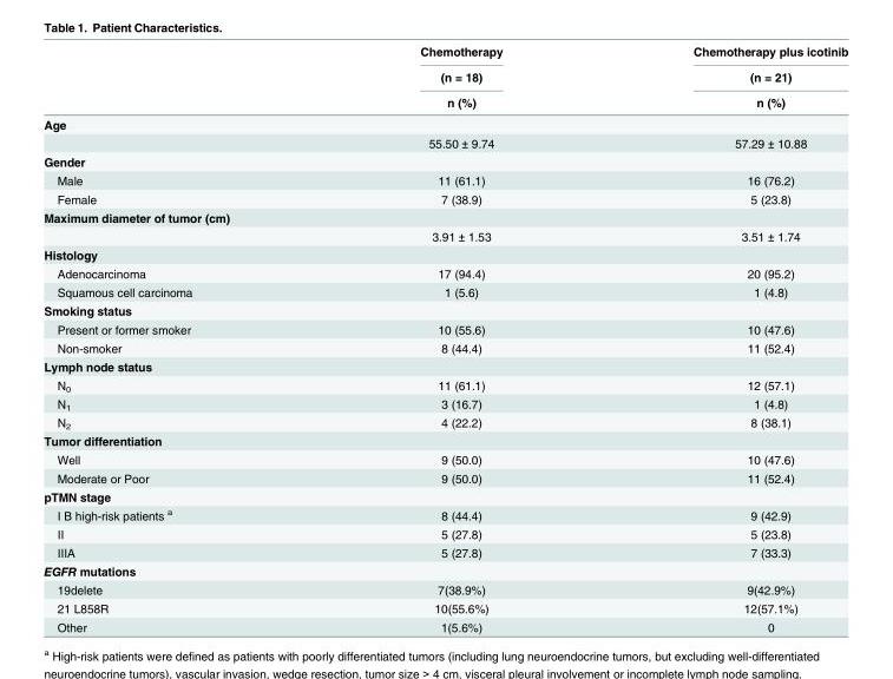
<table><thead><tr><td rowspan="3"></td><td rowspan="3">Chemotherapy (n = 18) n (%)</td><td rowspan="3">Chemotherapy plus icotinib (n = 21) n (%)</td></tr><tr></tr><tr></tr></thead><tbody><tr><td colspan="3">Age</td></tr><tr><td></td><td>55.50 ± 9.74</td><td>57.29 ± 10.88</td></tr><tr><td colspan="3">Gender</td></tr><tr><td>Male</td><td>11 (61.1)</td><td>16 (76.2)</td></tr><tr><td>Female</td><td>7 (38.9)</td><td>5 (23.8)</td></tr><tr><td colspan="3">Maximum diameter of tumor (cm)</td></tr><tr><td></td><td>3.91 ± 1.53</td><td>3.51 ± 1.74</td></tr><tr><td colspan="3">Histology</td></tr><tr><td>Adenocarcinoma</td><td>17 (94.4)</td><td>20 (95.2)</td></tr><tr><td>Squamous cell carcinoma</td><td>1 (5.6)</td><td>1 (4.8)</td></tr><tr><td colspan="3">Smoking status</td></tr><tr><td>Present or former smoker</td><td>10 (55.6)</td><td>10 (47.6)</td></tr><tr><td>Non-smoker</td><td>8 (44.4)</td><td>11 (52.4)</td></tr><tr><td colspan="3">Lymph node status</td></tr><tr><td>N<sub>0</sub></td><td>11 (61.1)</td><td>12 (57.1)</td></tr><tr><td>N<sub>1</sub></td><td>3 (16.7)</td><td>1 (4.8)</td></tr><tr><td>N<sub>2</sub></td><td>4 (22.2)</td><td>8 (38.1)</td></tr><tr><td colspan="3">Tumor differentiation</td></tr><tr><td>Well</td><td>9 (50.0)</td><td>10 (47.6)</td></tr><tr><td>Moderate or Poor</td><td>9 (50.0)</td><td>11 (52.4)</td></tr><tr><td colspan="3">pTMN stage</td></tr><tr><td>I B high-risk patients <sup>a</sup></td><td>8 (44.4)</td><td>9 (42.9)</td></tr><tr><td>Ⅱ</td><td>5 (27.8)</td><td>5 (23.8)</td></tr><tr><td>ⅢA</td><td>5 (27.8)</td><td>7 (33.3)</td></tr><tr><td colspan="3">EGFR mutations</td></tr><tr><td>19delete</td><td>7(38.9%)</td><td>9(42.9%)</td></tr><tr><td>21 L858R</td><td>10(55.6%)</td><td>12(57.1%)</td></tr><tr><td>Other</td><td>1(5.6%)</td><td>0</td></tr></tbody></table>